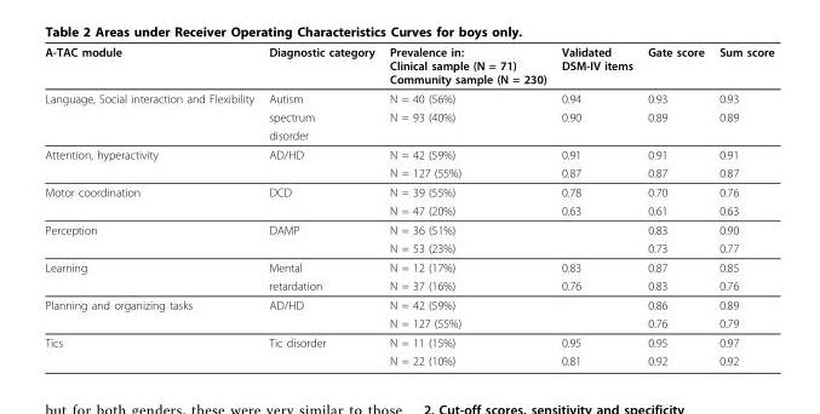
<table><thead><tr><td>A-TAC module</td><td>Diagnostic category</td><td>Prevalence in: Clinical sample (N = 71) Community sample (N = 230)</td><td>Validated DSM-IV items</td><td>Gate score</td><td>Sum score</td></tr></thead><tbody><tr><td rowspan="3">Language, Social interaction and Flexibility</td><td>Autism</td><td>N = 40 (56%)</td><td>0.94</td><td>0.93</td><td>0.93</td></tr><tr><td>spectrum</td><td>N = 93 (40%)</td><td>0.90</td><td>0.89</td><td>0.89</td></tr><tr><td>disorder</td><td></td><td></td><td></td><td></td></tr><tr><td rowspan="2">Attention, hyperactivity</td><td>AD/HD</td><td>N = 42 (59%)</td><td>0.91</td><td>0.91</td><td>0.91</td></tr><tr><td></td><td>N = 127 (55%)</td><td>0.87</td><td>0.87</td><td>0.87</td></tr><tr><td rowspan="2">Motor coordination</td><td>DCD</td><td>N = 39 (55%)</td><td>0.78</td><td>0.70</td><td>0.76</td></tr><tr><td></td><td>N = 47 (20%)</td><td>0.63</td><td>0.61</td><td>0.63</td></tr><tr><td rowspan="2">Perception</td><td>DAMP</td><td>N = 36 (51%)</td><td></td><td>0.83</td><td>0.90</td></tr><tr><td></td><td>N = 53 (23%)</td><td></td><td>0.73</td><td>0.77</td></tr><tr><td rowspan="2">Learning</td><td>Mental</td><td>N = 12 (17%)</td><td>0.83</td><td>0.87</td><td>0.85</td></tr><tr><td>retardation</td><td>N = 37 (16%)</td><td>0.76</td><td>0.83</td><td>0.76</td></tr><tr><td rowspan="2">Planning and organizing tasks</td><td>AD/HD</td><td>N = 42 (59%)</td><td></td><td>0.86</td><td>0.89</td></tr><tr><td></td><td>N = 127 (55%)</td><td></td><td>0.76</td><td>0.79</td></tr><tr><td rowspan="2">Tics</td><td>Tic disorder</td><td>N = 11 (15%)</td><td>0.95</td><td>0.95</td><td>0.97</td></tr><tr><td></td><td>N = 22 (10%)</td><td>0.81</td><td>0.92</td><td>0.92</td></tr></tbody></table>